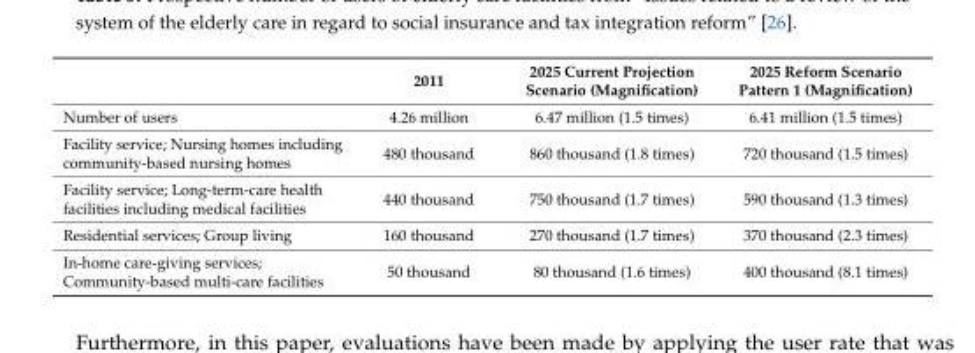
<table><thead><tr><td></td><td>2011</td><td>2025 Current Projection Scenario (Magnification)</td><td>2025 Reform Scenario Pattern 1 (Magnification)</td></tr></thead><tbody><tr><td>Number of users</td><td>4.26 million</td><td>6.47 million (1.5 times)</td><td>6.41 million (1.5 times)</td></tr><tr><td>Facility service; Nursing homes including community-based nursing homes</td><td>480 thousand</td><td>860 thousand (1.8 times)</td><td>720 thousand (1.5 times)</td></tr><tr><td>Facility service; Long-term-care health facilities including medical facilities</td><td>440 thousand</td><td>750 thousand (1.7 times)</td><td>590 thousand (1.3 times)</td></tr><tr><td>Residential services; Group living</td><td>160 thousand</td><td>270 thousand (1.7 times)</td><td>370 thousand (2.3 times)</td></tr><tr><td>In-home care-giving services; Community-based multi-care facilities</td><td>50 thousand</td><td>80 thousand (1.6 times)</td><td>400 thousand (8.1 times)</td></tr></tbody></table>